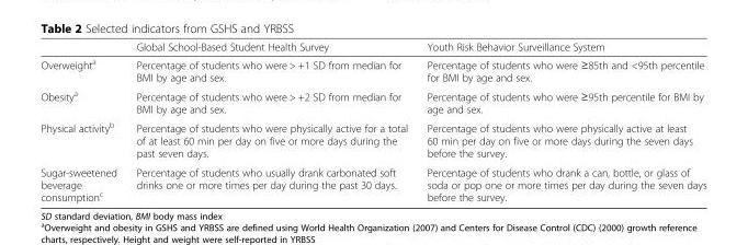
<table><thead><tr><td></td><td>Global School-Based Student Health Survey</td><td>Youth Risk Behavior Surveillance System</td></tr></thead><tbody><tr><td>Overweight<sup>a</sup></td><td>Percentage of students who were &gt; +1 SD from median for BMI by age and sex.</td><td>Percentage of students who were ≥85th and &lt;95th percentile for BMI by age and sex.</td></tr><tr><td>Obesity<sup>a</sup></td><td>Percentage of students who were &gt; +2 SD from median for BMI by age and sex.</td><td>Percentage of students who were ≥95th percentile for BMI by age and sex.</td></tr><tr><td>Physical activity<sup>b</sup></td><td>Percentage of students who were physically active for a total of at least 60 min per day on five or more days during the past seven days.</td><td>Percentage of students who were physically active at least 60 min per day on five or more days during the seven days before the survey.</td></tr><tr><td>Sugar-sweetened beverage consumption<sup>c</sup></td><td>Percentage of students who usually drank carbonated soft drinks one or more times per day during the past 30 days.</td><td>Percentage of students who drank a can, bottle, or glass of soda or pop one or more times per day during the seven days before the survey.</td></tr></tbody></table>